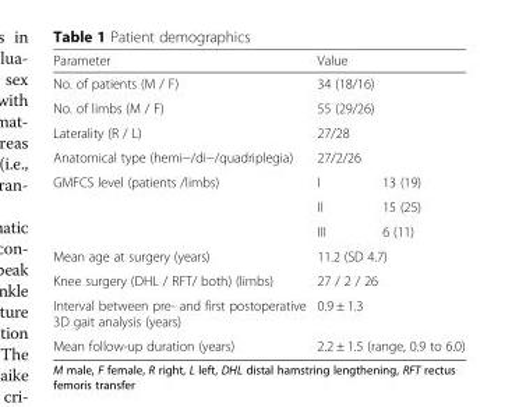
<table><thead><tr><td>Parameter</td><td colspan="2">Value</td></tr></thead><tbody><tr><td>No. of patients (M / F)</td><td colspan="2">34 (18/16)</td></tr><tr><td>No. of limbs (M / F)</td><td colspan="2">55 (29/26)</td></tr><tr><td>Laterality (R / L)</td><td colspan="2">27/28</td></tr><tr><td>Anatomical type (hemi−/di−/quadriplegia)</td><td colspan="2">27/2/26</td></tr><tr><td rowspan="3">GMFCS level (patients /limbs)</td><td>I</td><td>13 (19)</td></tr><tr><td>II</td><td>15 (25)</td></tr><tr><td>III</td><td>6 (11)</td></tr><tr><td>Mean age at surgery (years)</td><td colspan="2">11.2 (SD 4.7)</td></tr><tr><td>Knee surgery (DHL / RFT/ both) (limbs)</td><td colspan="2">27 / 2 / 26</td></tr><tr><td>Interval between pre- and first postoperative 3D gait analysis (years)</td><td colspan="2">0.9 ± 1.3</td></tr><tr><td>Mean follow-up duration (years)</td><td colspan="2">2.2 ± 1.5 (range, 0.9 to 6.0)</td></tr></tbody></table>